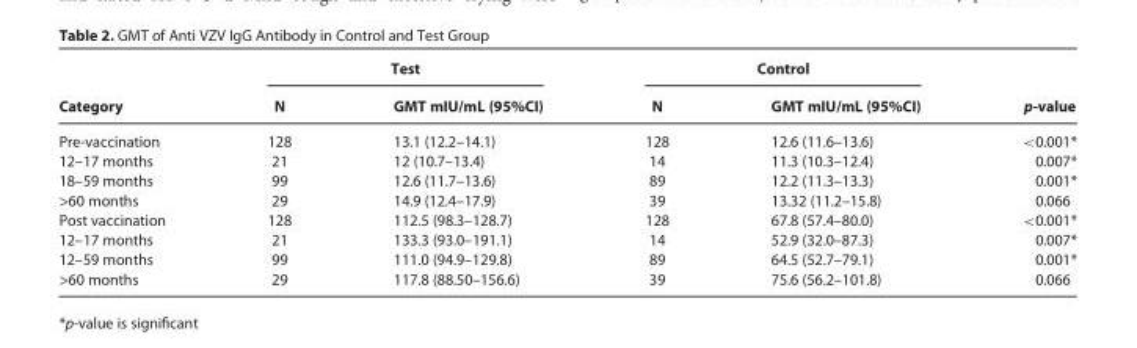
<table><thead><tr><td rowspan="2">Category</td><td colspan="2">Test</td><td colspan="2">Control</td><td rowspan="2">p-value</td></tr><tr><td>N</td><td>GMT mIU/mL (95%CI)</td><td>N</td><td>GMT mIU/mL (95%CI)</td></tr></thead><tbody><tr><td>Pre-vaccination</td><td>128</td><td>13.1 (12.2–14.1)</td><td>128</td><td>12.6 (11.6–13.6)</td><td>&lt;0.001*</td></tr><tr><td>12–17 months</td><td>21</td><td>12 (10.7–13.4)</td><td>14</td><td>11.3 (10.3–12.4)</td><td>0.007*</td></tr><tr><td>18–59 months</td><td>99</td><td>12.6 (11.7–13.6)</td><td>89</td><td>12.2 (11.3–13.3)</td><td>0.001*</td></tr><tr><td>&gt;60 months</td><td>29</td><td>14.9 (12.4–17.9)</td><td>39</td><td>13.32 (11.2–15.8)</td><td>0.066</td></tr><tr><td>Post vaccination</td><td>128</td><td>112.5 (98.3–128.7)</td><td>128</td><td>67.8 (57.4–80.0)</td><td>&lt;0.001*</td></tr><tr><td>12–17 months</td><td>21</td><td>133.3 (93.0–191.1)</td><td>14</td><td>52.9 (32.0–87.3)</td><td>0.007*</td></tr><tr><td>12–59 months</td><td>99</td><td>111.0 (94.9–129.8)</td><td>89</td><td>64.5 (52.7–79.1)</td><td>0.001*</td></tr><tr><td>&gt;60 months</td><td>29</td><td>117.8 (88.50–156.6)</td><td>39</td><td>75.6 (56.2–101.8)</td><td>0.066</td></tr></tbody></table>